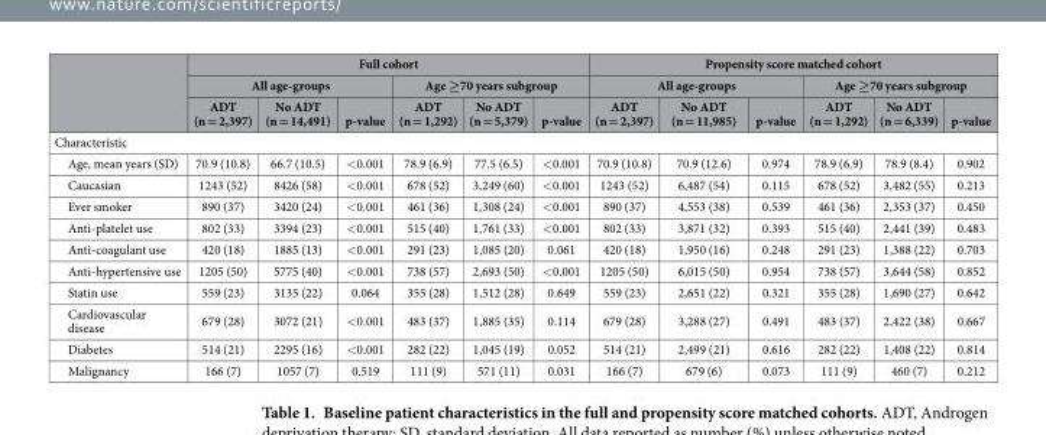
<table><thead><tr><td rowspan="3"></td><td colspan="6">Full cohort</td><td colspan="6">Propensity score matched cohort</td></tr><tr><td colspan="3">All age-groups</td><td colspan="3">Age ≥70 years subgroup</td><td colspan="3">All age-groups</td><td colspan="3">Age ≥70 years subgroup</td></tr><tr><td>ADT (n = 2,397)</td><td>No ADT (n = 14,491)</td><td>p-value</td><td>ADT (n = 1,292)</td><td>No ADT (n = 5,379)</td><td>p-value</td><td>ADT (n = 2,397)</td><td>No ADT (n = 11,985)</td><td>p-value</td><td>ADT (n = 1,292)</td><td>No ADT (n = 6,339)</td><td>p-value</td></tr></thead><tbody><tr><td colspan="13">Characteristic</td></tr><tr><td>Age, mean years (SD)</td><td>70.9 (10.8)</td><td>66.7 (10.5)</td><td>&lt; 0.001</td><td>78.9 (6.9)</td><td>77.5 (6.5)</td><td>&lt; 0.001</td><td>70.9 (10.8)</td><td>70.9 (12.6)</td><td>0.974</td><td>78.9 (6.9)</td><td>78.9 (8.4)</td><td>0.902</td></tr><tr><td>Caucasian</td><td>1243 (52)</td><td>8426 (58)</td><td>&lt; 0.001</td><td>678 (52)</td><td>3,249 (60)</td><td>&lt; 0.001</td><td>1243 (52)</td><td>6,487 (54)</td><td>0.115</td><td>678 (52)</td><td>3,482 (55)</td><td>0.213</td></tr><tr><td>Ever smoker</td><td>890 (37)</td><td>3420 (24)</td><td>&lt; 0.001</td><td>461 (36)</td><td>1,308 (24)</td><td>&lt; 0.001</td><td>890 (37)</td><td>4,553 (38)</td><td>0.539</td><td>461 (36)</td><td>2,353 (37)</td><td>0.450</td></tr><tr><td>Anti-platelet use</td><td>802 (33)</td><td>3394 (23)</td><td>&lt; 0.001</td><td>515 (40)</td><td>1,761 (33)</td><td>&lt; 0.001</td><td>802 (33)</td><td>3,871 (32)</td><td>0.393</td><td>515 (40)</td><td>2,441 (39)</td><td>0.483</td></tr><tr><td>Anti-coagulant use</td><td>420 (18)</td><td>1885 (13)</td><td>&lt; 0.001</td><td>291 (23)</td><td>1,085 (20)</td><td>0.061</td><td>420 (18)</td><td>1,950 (16)</td><td>0.248</td><td>291 (23)</td><td>1,388 (22)</td><td>0.703</td></tr><tr><td>Anti-hypertensive use</td><td>1205 (50)</td><td>5775 (40)</td><td>&lt; 0.001</td><td>738 (57)</td><td>2,693 (50)</td><td>&lt; 0.001</td><td>1205 (50)</td><td>6,015 (50)</td><td>0.954</td><td>738 (57)</td><td>3,644 (58)</td><td>0.852</td></tr><tr><td>Statin use</td><td>559 (23)</td><td>3135 (22)</td><td>0.064</td><td>355 (28)</td><td>1,512 (28)</td><td>0.649</td><td>559 (23)</td><td>2,651 (22)</td><td>0.321</td><td>355 (28)</td><td>1,690 (27)</td><td>0.642</td></tr><tr><td>Cardiovascular disease</td><td>679 (28)</td><td>3072 (21)</td><td>&lt; 0.001</td><td>483 (37)</td><td>1,885 (35)</td><td>0.114</td><td>679 (28)</td><td>3,288 (27)</td><td>0.491</td><td>483 (37)</td><td>2,422 (38)</td><td>0.667</td></tr><tr><td>Diabetes</td><td>514 (21)</td><td>2295 (16)</td><td>&lt; 0.001</td><td>282 (22)</td><td>1,045 (19)</td><td>0.052</td><td>514 (21)</td><td>2,499 (21)</td><td>0.616</td><td>282 (22)</td><td>1,408 (22)</td><td>0.814</td></tr><tr><td>Malignancy</td><td>166 (7)</td><td>1057 (7)</td><td>0.519</td><td>111 (9)</td><td>571 (11)</td><td>0.031</td><td>166 (7)</td><td>679 (6)</td><td>0.073</td><td>111 (9)</td><td>460 (7)</td><td>0.212</td></tr></tbody></table>